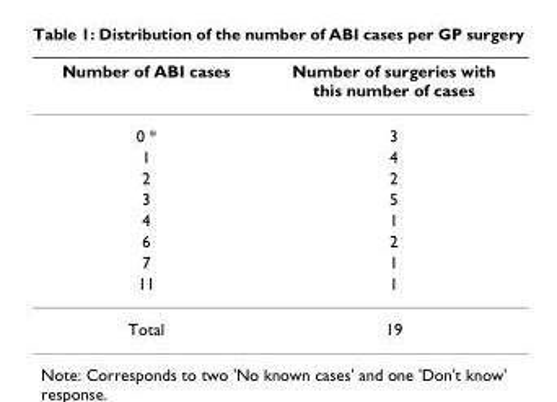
<table><thead><tr><td>Number of ABI cases</td><td>Number of surgeries with this number of cases</td></tr></thead><tbody><tr><td>0 *</td><td>3</td></tr><tr><td>1</td><td>4</td></tr><tr><td>2</td><td>2</td></tr><tr><td>3</td><td>5</td></tr><tr><td>4</td><td>1</td></tr><tr><td>6</td><td>2</td></tr><tr><td>7</td><td>1</td></tr><tr><td>11</td><td>1</td></tr><tr><td>Total</td><td>19</td></tr></tbody></table>